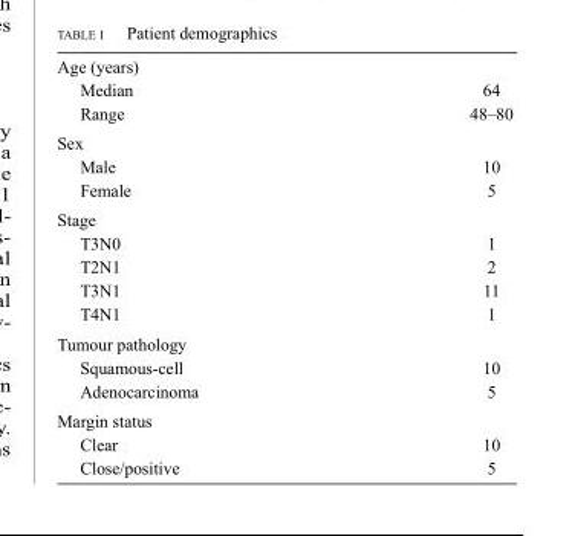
<table><tbody><tr><td colspan="2">Age (years)</td></tr><tr><td>Median</td><td>64</td></tr><tr><td>Range</td><td>48–80</td></tr><tr><td colspan="2">Sex</td></tr><tr><td>Male</td><td>10</td></tr><tr><td>Female</td><td>5</td></tr><tr><td colspan="2">Stage</td></tr><tr><td>T3N0</td><td>1</td></tr><tr><td>T2N1</td><td>2</td></tr><tr><td>T3N1</td><td>11</td></tr><tr><td>T4N1</td><td>1</td></tr><tr><td colspan="2">Tumour pathology</td></tr><tr><td>Squamous-cell</td><td>10</td></tr><tr><td>Adenocarcinoma</td><td>5</td></tr><tr><td colspan="2">Margin status</td></tr><tr><td>Clear</td><td>10</td></tr><tr><td>Close/positive</td><td>5</td></tr></tbody></table>